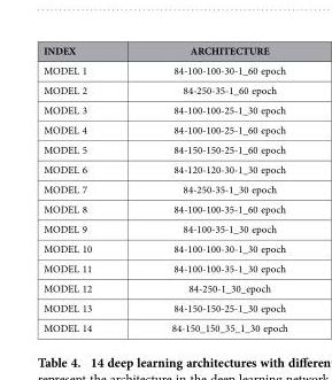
<table><thead><tr><td>INDEX</td><td>ARCHITECTURE</td></tr></thead><tbody><tr><td>MODEL 1</td><td>84-100-100-30-1_60 epoch</td></tr><tr><td>MODEL 2</td><td>84-250-35-1_60 epoch</td></tr><tr><td>MODEL 3</td><td>84-100-100-25-1_30 epoch</td></tr><tr><td>MODEL 4</td><td>84-100-100-25-1_60 epoch</td></tr><tr><td>MODEL 5</td><td>84-150-150-25-1_60 epoch</td></tr><tr><td>MODEL 6</td><td>84-120-120-30-1_30 epoch</td></tr><tr><td>MODEL 7</td><td>84-250-35-1_30 epoch</td></tr><tr><td>MODEL 8</td><td>84-100-100-35-1_60 epoch</td></tr><tr><td>MODEL 9</td><td>84-100-35-1_30 epoch</td></tr><tr><td>MODEL 10</td><td>84-100-100-30-1_30 epoch</td></tr><tr><td>MODEL 11</td><td>84-100-100-35-1_30 epoch</td></tr><tr><td>MODEL 12</td><td>84-250-1_30_epoch</td></tr><tr><td>MODEL 13</td><td>84-150-150-25-1_30 epoch</td></tr><tr><td>MODEL 14</td><td>84-150_150_35_1_30 epoch</td></tr></tbody></table>